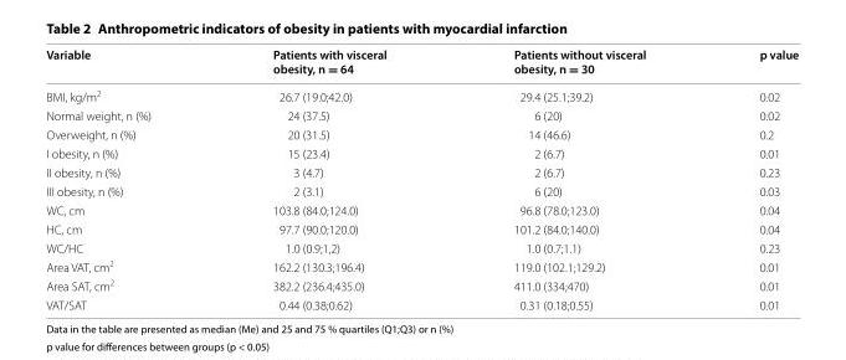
<table><thead><tr><td>Variable</td><td>Patients with visceral obesity, n = 64</td><td>Patients without visceral obesity, n = 30</td><td>p value</td></tr></thead><tbody><tr><td>BMI, kg/m<sup>2</sup></td><td>26.7 (19.0;42.0)</td><td>29.4 (25.1;39.2)</td><td>0.02</td></tr><tr><td>Normal weight, n (%)</td><td>24 (37.5)</td><td>6 (20)</td><td>0.02</td></tr><tr><td>Overweight, n (%)</td><td>20 (31.5)</td><td>14 (46.6)</td><td>0.2</td></tr><tr><td>I obesity, n (%)</td><td>15 (23.4)</td><td>2 (6.7)</td><td>0.01</td></tr><tr><td>II obesity, n (%)</td><td>3 (4.7)</td><td>2 (6.7)</td><td>0.23</td></tr><tr><td>III obesity, n (%)</td><td>2 (3.1)</td><td>6 (20)</td><td>0.03</td></tr><tr><td>WC, cm</td><td>103.8 (84.0;124.0)</td><td>96.8 (78.0;123.0)</td><td>0.04</td></tr><tr><td>HC, cm</td><td>97.7 (90.0;120.0)</td><td>101.2 (84.0;140.0)</td><td>0.04</td></tr><tr><td>WC/HC</td><td>1.0 (0.9;1,2)</td><td>1.0 (0.7;1.1)</td><td>0.23</td></tr><tr><td>Area VAT, cm<sup>2</sup></td><td>162.2 (130.3;196.4)</td><td>119.0 (102.1;129.2)</td><td>0.01</td></tr><tr><td>Area SAT, cm<sup>2</sup></td><td>382.2 (236.4;435.0)</td><td>411.0 (334;470)</td><td>0.01</td></tr><tr><td>VAT/SAT</td><td>0.44 (0.38;0.62)</td><td>0.31 (0.18;0.55)</td><td>0.01</td></tr></tbody></table>